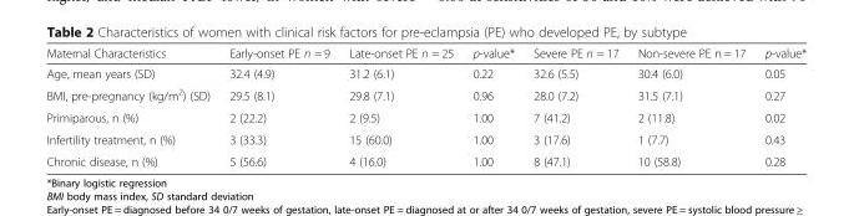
<table><thead><tr><td>Maternal Characteristics</td><td>Early-onset PE n = 9</td><td>Late-onset PE n = 25</td><td>p-value*</td><td>Severe PE n = 17</td><td>Non-severe PE n = 17</td><td>p-value*</td></tr></thead><tbody><tr><td>Age, mean years (SD)</td><td>32.4 (4.9)</td><td>31.2 (6.1)</td><td>0.22</td><td>32.6 (5.5)</td><td>30.4 (6.0)</td><td>0.05</td></tr><tr><td>BMI, pre-pregnancy (kg/m<sup>2</sup>) (SD)</td><td>29.5 (8.1)</td><td>29.8 (7.1)</td><td>0.96</td><td>28.0 (7.2)</td><td>31.5 (7.1)</td><td>0.27</td></tr><tr><td>Primiparous, n (%)</td><td>2 (22.2)</td><td>2 (9.5)</td><td>1.00</td><td>7 (41.2)</td><td>2 (11.8)</td><td>0.02</td></tr><tr><td>Infertility treatment, n (%)</td><td>3 (33.3)</td><td>15 (60.0)</td><td>1.00</td><td>3 (17.6)</td><td>1 (7.7)</td><td>0.43</td></tr><tr><td>Chronic disease, n (%)</td><td>5 (56.6)</td><td>4 (16.0)</td><td>1.00</td><td>8 (47.1)</td><td>10 (58.8)</td><td>0.28</td></tr></tbody></table>